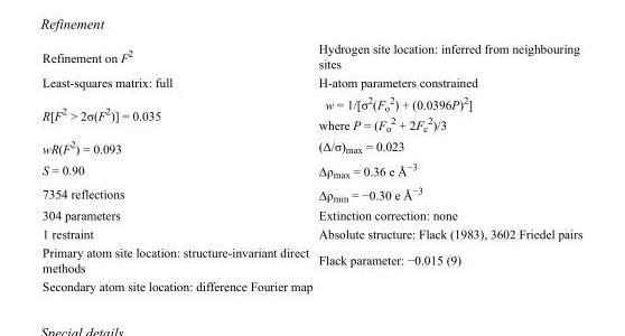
<table><tbody><tr><td>Refinement on F<sup>2</sup></td><td>Hydrogen site location: inferred from neighbouring sites</td></tr><tr><td>Least-squares matrix: full</td><td>H-atom parameters constrained</td></tr><tr><td>R[F<sup>2</sup> &gt; 2σ(F<sup>2</sup>)] = 0.035</td><td>w = 1/[σ<sup>2</sup>(F<sub>o</sub> <sup>2</sup>) + (0.0396P)<sup>2</sup>] where P = (F<sub>o</sub> <sup>2</sup> + 2F<sub>c</sub> <sup>2</sup>)/3</td></tr><tr><td>wR(F<sup>2</sup>) = 0.093</td><td>(Δ/σ)<sub>max</sub> = 0.023</td></tr><tr><td>S = 0.90</td><td>Δρ<sub>max</sub> = 0.36 e Å<sup>−3</sup></td></tr><tr><td>7354 reflections</td><td>Δρ<sub>min</sub> = −0.30 e Å<sup>−3</sup></td></tr><tr><td>304 parameters</td><td>Extinction correction: none</td></tr><tr><td>1 restraint</td><td>Absolute structure: Flack (1983), 3602 Friedel pairs</td></tr><tr><td>Primary atom site location: structure-invariant direct methods</td><td>Flack parameter: −0.015 (9)</td></tr><tr><td>Secondary atom site location: difference Fourier map</td><td></td></tr></tbody></table>